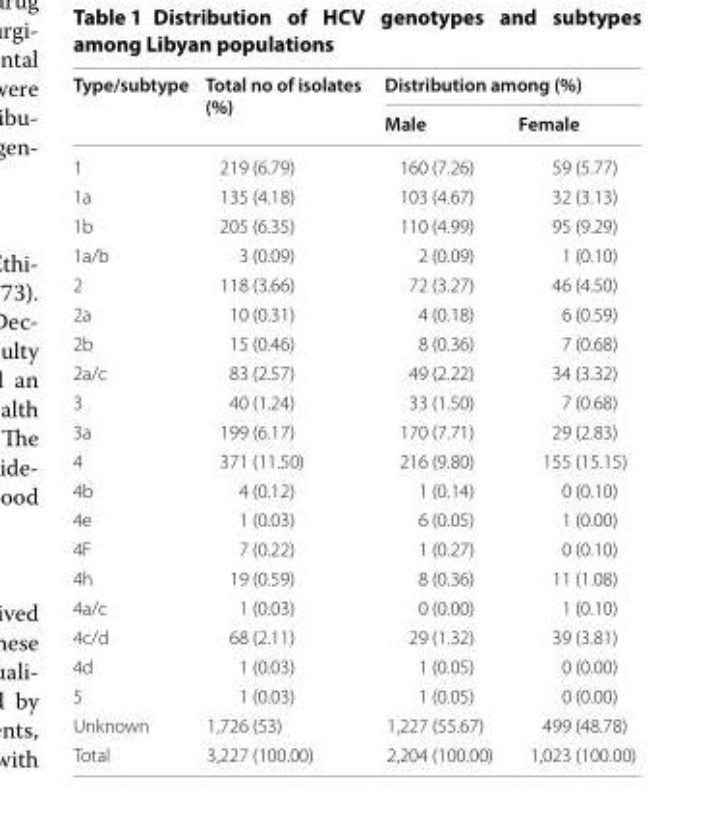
<table><thead><tr><td rowspan="2">Type/subtype</td><td rowspan="2">Total no of isolates (%)</td><td colspan="2">Distribution among (%)</td></tr><tr><td>Male</td><td>Female</td></tr></thead><tbody><tr><td>1</td><td>219 (6.79)</td><td>160 (7.26)</td><td>59 (5.77)</td></tr><tr><td>1a</td><td>135 (4.18)</td><td>103 (4.67)</td><td>32 (3.13)</td></tr><tr><td>1b</td><td>205 (6.35)</td><td>110 (4.99)</td><td>95 (9.29)</td></tr><tr><td>1a/b</td><td>3 (0.09)</td><td>2 (0.09)</td><td>1 (0.10)</td></tr><tr><td>2</td><td>118 (3.66)</td><td>72 (3.27)</td><td>46 (4.50)</td></tr><tr><td>2a</td><td>10 (0.31)</td><td>4 (0.18)</td><td>6 (0.59)</td></tr><tr><td>2b</td><td>15 (0.46)</td><td>8 (0.36)</td><td>7 (0.68)</td></tr><tr><td>2a/c</td><td>83 (2.57)</td><td>49 (2.22)</td><td>34 (3.32)</td></tr><tr><td>3</td><td>40 (1.24)</td><td>33 (1.50)</td><td>7 (0.68)</td></tr><tr><td>3a</td><td>199 (6.17)</td><td>170 (7.71)</td><td>29 (2.83)</td></tr><tr><td>4</td><td>371 (11.50)</td><td>216 (9.80)</td><td>155 (15.15)</td></tr><tr><td>4b</td><td>4 (0.12)</td><td>1 (0.14)</td><td>0 (0.10)</td></tr><tr><td>4e</td><td>1 (0.03)</td><td>6 (0.05)</td><td>1 (0.00)</td></tr><tr><td>4F</td><td>7 (0.22)</td><td>1 (0.27)</td><td>0 (0.10)</td></tr><tr><td>4h</td><td>19 (0.59)</td><td>8 (0.36)</td><td>11 (1.08)</td></tr><tr><td>4a/c</td><td>1 (0.03)</td><td>0 (0.00)</td><td>1 (0.10)</td></tr><tr><td>4c/d</td><td>68 (2.11)</td><td>29 (1.32)</td><td>39 (3.81)</td></tr><tr><td>4d</td><td>1 (0.03)</td><td>1 (0.05)</td><td>0 (0.00)</td></tr><tr><td>5</td><td>1 (0.03)</td><td>1 (0.05)</td><td>0 (0.00)</td></tr><tr><td>Unknown</td><td>1,726 (53)</td><td>1,227 (55.67)</td><td>499 (48.78)</td></tr><tr><td>Total</td><td>3,227 (100.00)</td><td>2,204 (100.00)</td><td>1,023 (100.00)</td></tr></tbody></table>